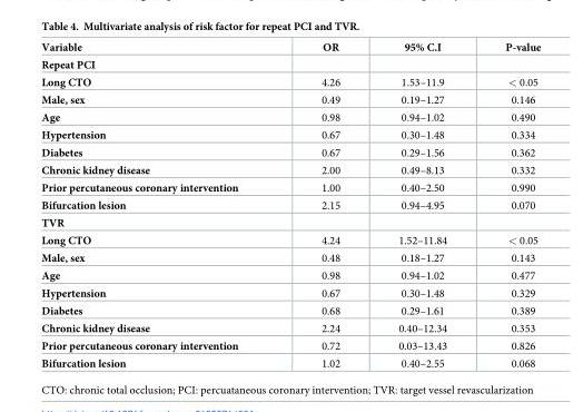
<table><thead><tr><td>Variable</td><td>OR</td><td>95% C.I</td><td>P-value</td></tr></thead><tbody><tr><td colspan="4">Repeat PCI</td></tr><tr><td>Long CTO</td><td>4.26</td><td>1.53–11.9</td><td>&lt; 0.05</td></tr><tr><td>Male, sex</td><td>0.49</td><td>0.19–1.27</td><td>0.146</td></tr><tr><td>Age</td><td>0.98</td><td>0.94–1.02</td><td>0.490</td></tr><tr><td>Hypertension</td><td>0.67</td><td>0.30–1.48</td><td>0.334</td></tr><tr><td>Diabetes</td><td>0.67</td><td>0.29–1.56</td><td>0.362</td></tr><tr><td>Chronic kidney disease</td><td>2.00</td><td>0.49–8.13</td><td>0.332</td></tr><tr><td>Prior percutaneous coronary intervention</td><td>1.00</td><td>0.40–2.50</td><td>0.990</td></tr><tr><td>Bifurcation lesion</td><td>2.15</td><td>0.94–4.95</td><td>0.070</td></tr><tr><td colspan="4">TVR</td></tr><tr><td>Long CTO</td><td>4.24</td><td>1.52–11.84</td><td>&lt; 0.05</td></tr><tr><td>Male, sex</td><td>0.48</td><td>0.18–1.27</td><td>0.143</td></tr><tr><td>Age</td><td>0.98</td><td>0.94–1.02</td><td>0.477</td></tr><tr><td>Hypertension</td><td>0.67</td><td>0.30–1.48</td><td>0.329</td></tr><tr><td>Diabetes</td><td>0.68</td><td>0.29–1.61</td><td>0.389</td></tr><tr><td>Chronic kidney disease</td><td>2.24</td><td>0.40–12.34</td><td>0.353</td></tr><tr><td>Prior percutaneous coronary intervention</td><td>0.72</td><td>0.03–13.43</td><td>0.826</td></tr><tr><td>Bifurcation lesion</td><td>1.02</td><td>0.40–2.55</td><td>0.068</td></tr></tbody></table>